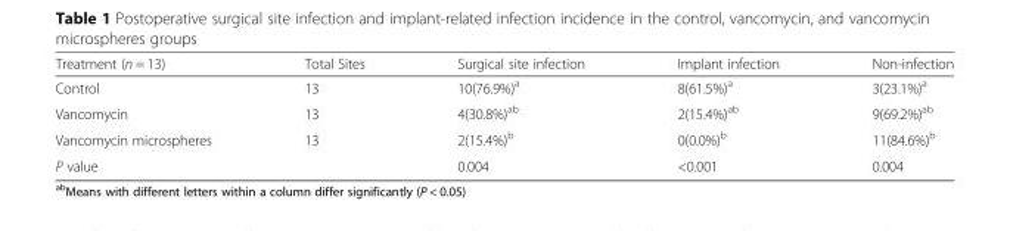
<table><thead><tr><td>Treatment (n = 13)</td><td>Total Sites</td><td>Surgical site infection</td><td>Implant infection</td><td>Non-infection</td></tr></thead><tbody><tr><td>Control</td><td>13</td><td>10(76.9%)<sup>a</sup></td><td>8(61.5%)<sup>a</sup></td><td>3(23.1%)<sup>a</sup></td></tr><tr><td>Vancomycin</td><td>13</td><td>4(30.8%)<sup>ab</sup></td><td>2(15.4%)<sup>ab</sup></td><td>9(69.2%)<sup>ab</sup></td></tr><tr><td>Vancomycin microspheres</td><td>13</td><td>2(15.4%)<sup>b</sup></td><td>0(0.0%)<sup>b</sup></td><td>11(84.6%)<sup>b</sup></td></tr><tr><td>P value</td><td></td><td>0.004</td><td>&lt;0.001</td><td>0.004</td></tr></tbody></table>